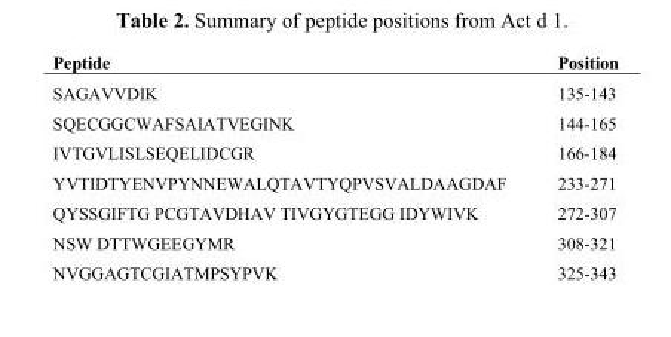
<table><thead><tr><td>Peptide</td><td>Position</td></tr></thead><tbody><tr><td>SAGAVVDIK</td><td>135-143</td></tr><tr><td>SQECGGCWAFSAIATVEGINK</td><td>144-165</td></tr><tr><td>IVTGVLISLSEQELIDCGR</td><td>166-184</td></tr><tr><td>YVTIDTYENVPYNNEWALQTAVTYQPVSVALDAAGDAF</td><td>233-271</td></tr><tr><td>QYSSGIFTG PCGTAVDHAV TIVGYGTEGG IDYWIVK</td><td>272-307</td></tr><tr><td>NSW DTTWGEEGYMR</td><td>308-321</td></tr><tr><td>NVGGAGTCGIATMPSYPVK</td><td>325-343</td></tr></tbody></table>